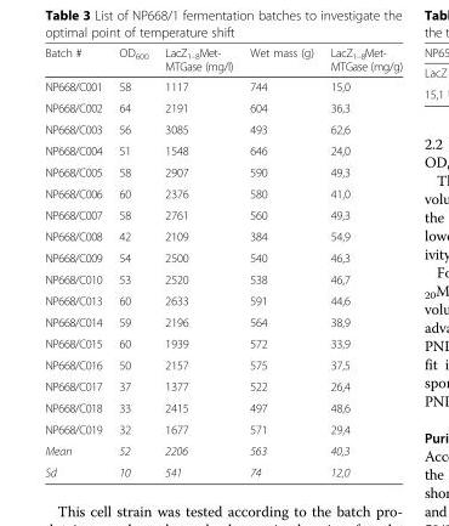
<table><thead><tr><td>Batch #</td><td>OD<sub>600</sub></td><td>LacZ<sub>1–8</sub>Met- MTGase (mg/l)</td><td>Wet mass (g)</td><td>LacZ<sub>1–8</sub>Met- MTGase (mg/g)</td></tr></thead><tbody><tr><td>NP668/C001</td><td>58</td><td>1117</td><td>744</td><td>15,0</td></tr><tr><td>NP668/C002</td><td>64</td><td>2191</td><td>604</td><td>36,3</td></tr><tr><td>NP668/C003</td><td>56</td><td>3085</td><td>493</td><td>62,6</td></tr><tr><td>NP668/C004</td><td>51</td><td>1548</td><td>646</td><td>24,0</td></tr><tr><td>NP668/C005</td><td>58</td><td>2907</td><td>590</td><td>49,3</td></tr><tr><td>NP668/C006</td><td>60</td><td>2376</td><td>580</td><td>41,0</td></tr><tr><td>NP668/C007</td><td>58</td><td>2761</td><td>560</td><td>49,3</td></tr><tr><td>NP668/C008</td><td>42</td><td>2109</td><td>384</td><td>54,9</td></tr><tr><td>NP668/C009</td><td>54</td><td>2500</td><td>540</td><td>46,3</td></tr><tr><td>NP668/C010</td><td>53</td><td>2520</td><td>538</td><td>46,7</td></tr><tr><td>NP668/C013</td><td>60</td><td>2633</td><td>591</td><td>44,6</td></tr><tr><td>NP668/C014</td><td>59</td><td>2196</td><td>564</td><td>38,9</td></tr><tr><td>NP668/C015</td><td>60</td><td>1939</td><td>572</td><td>33,9</td></tr><tr><td>NP668/C016</td><td>50</td><td>2157</td><td>575</td><td>37,5</td></tr><tr><td>NP668/C017</td><td>37</td><td>1377</td><td>522</td><td>26,4</td></tr><tr><td>NP668/C018</td><td>33</td><td>2415</td><td>497</td><td>48,6</td></tr><tr><td>NP668/C019</td><td>32</td><td>1677</td><td>571</td><td>29,4</td></tr><tr><td>Mean</td><td>52</td><td>2206</td><td>563</td><td>40,3</td></tr><tr><td>Sd</td><td>10</td><td>541</td><td>74</td><td>12,0</td></tr></tbody></table>